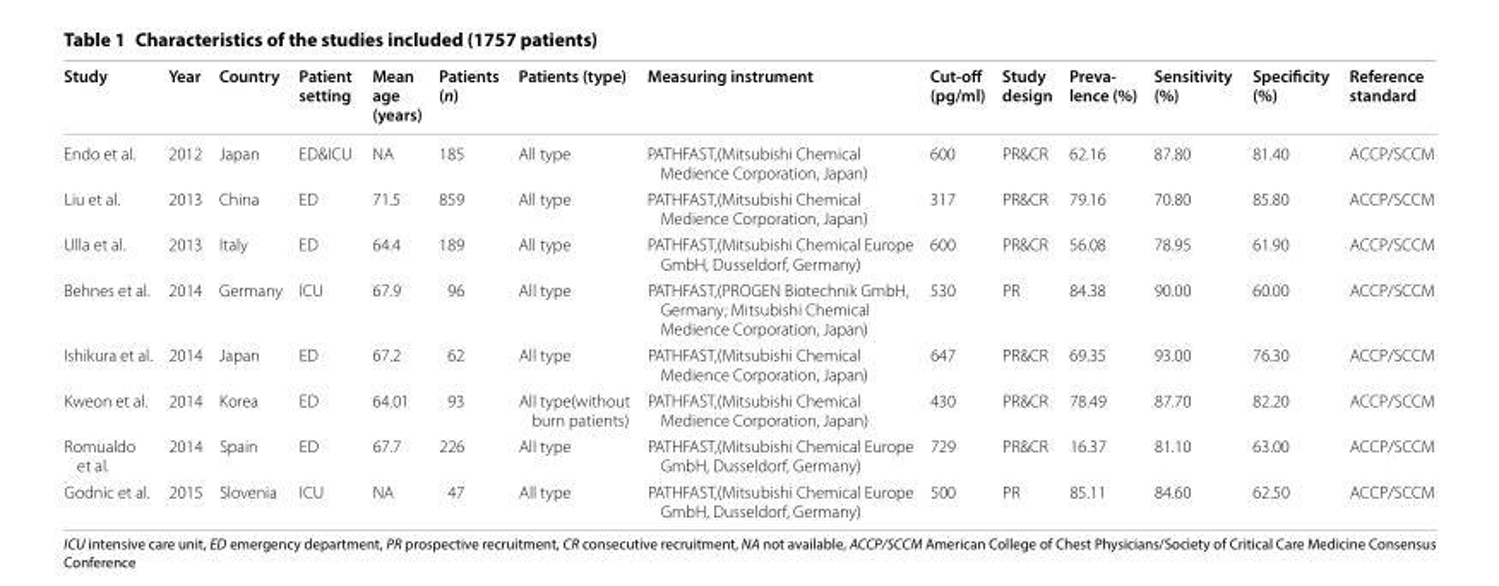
<table><thead><tr><td>Study</td><td>Year</td><td>Country</td><td>Patient setting</td><td>Mean age (years)</td><td>Patients (n)</td><td>Patients (type)</td><td>Measuring instrument</td><td>Cut‑off (pg/ml)</td><td>Study design</td><td>Preva‑ lence (%)</td><td>Sensitivity (%)</td><td>Specificity (%)</td><td>Reference standard</td></tr></thead><tbody><tr><td>Endo et al.</td><td>2012</td><td>Japan</td><td>ED&amp;ICU</td><td>NA</td><td>185</td><td>All type</td><td>PATHFAST,(Mitsubishi Chemical Medience Corporation, Japan)</td><td>600</td><td>PR&amp;CR</td><td>62.16</td><td>87.80</td><td>81.40</td><td>ACCP/SCCM</td></tr><tr><td>Liu et al.</td><td>2013</td><td>China</td><td>ED</td><td>71.5</td><td>859</td><td>All type</td><td>PATHFAST,(Mitsubishi Chemical Medience Corporation, Japan)</td><td>317</td><td>PR&amp;CR</td><td>79.16</td><td>70.80</td><td>85.80</td><td>ACCP/SCCM</td></tr><tr><td>Ulla et al.</td><td>2013</td><td>Italy</td><td>ED</td><td>64.4</td><td>189</td><td>All type</td><td>PATHFAST,(Mitsubishi Chemical Europe GmbH, Dusseldorf, Germany)</td><td>600</td><td>PR&amp;CR</td><td>56.08</td><td>78.95</td><td>61.90</td><td>ACCP/SCCM</td></tr><tr><td>Behnes et al.</td><td>2014</td><td>Germany</td><td>ICU</td><td>67.9</td><td>96</td><td>All type</td><td>PATHFAST,(PROGEN Biotechnik GmbH, Germany; Mitsubishi Chemical Medience Corporation, Japan)</td><td>530</td><td>PR</td><td>84.38</td><td>90.00</td><td>60.00</td><td>ACCP/SCCM</td></tr><tr><td>Ishikura et al.</td><td>2014</td><td>Japan</td><td>ED</td><td>67.2</td><td>62</td><td>All type</td><td>PATHFAST,(Mitsubishi Chemical Medience Corporation, Japan)</td><td>647</td><td>PR&amp;CR</td><td>69.35</td><td>93.00</td><td>76.30</td><td>ACCP/SCCM</td></tr><tr><td>Kweon et al.</td><td>2014</td><td>Korea</td><td>ED</td><td>64.01</td><td>93</td><td>All type(without burn patients)</td><td>PATHFAST,(Mitsubishi Chemical Medience Corporation, Japan)</td><td>430</td><td>PR&amp;CR</td><td>78.49</td><td>87.70</td><td>82.20</td><td>ACCP/SCCM</td></tr><tr><td>Romualdo et al.</td><td>2014</td><td>Spain</td><td>ED</td><td>67.7</td><td>226</td><td>All type</td><td>PATHFAST,(Mitsubishi Chemical Europe GmbH, Dusseldorf, Germany)</td><td>729</td><td>PR&amp;CR</td><td>16.37</td><td>81.10</td><td>63.00</td><td>ACCP/SCCM</td></tr><tr><td>Godnic et al.</td><td>2015</td><td>Slovenia</td><td>ICU</td><td>NA</td><td>47</td><td>All type</td><td>PATHFAST,(Mitsubishi Chemical Europe GmbH, Dusseldorf, Germany)</td><td>500</td><td>PR</td><td>85.11</td><td>84.60</td><td>62.50</td><td>ACCP/SCCM</td></tr></tbody></table>